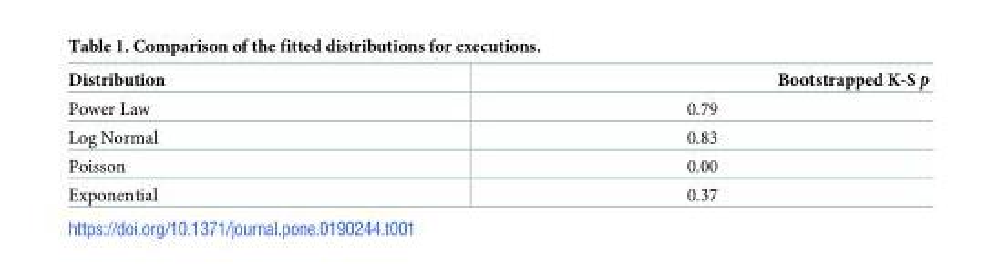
<table><thead><tr><td>Distribution</td><td>Bootstrapped K-S p</td></tr></thead><tbody><tr><td>Power Law</td><td>0.79</td></tr><tr><td>Log Normal</td><td>0.83</td></tr><tr><td>Poisson</td><td>0.00</td></tr><tr><td>Exponential</td><td>0.37</td></tr></tbody></table>